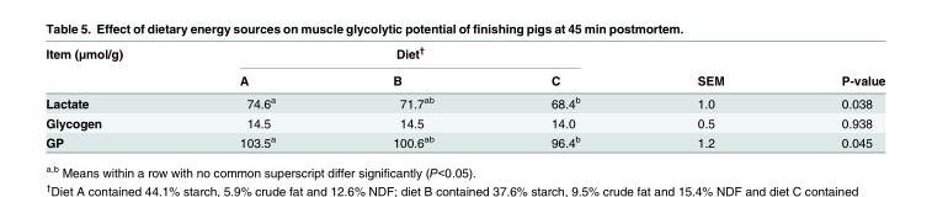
<table><thead><tr><td rowspan="2">Item (μmol/g)</td><td colspan="3">Diet<sup>†</sup></td><td rowspan="2">SEM</td><td rowspan="2">P-value</td></tr><tr><td>A</td><td>B</td><td>C</td></tr></thead><tbody><tr><td>Lactate</td><td>74.6<sup>a</sup></td><td>71.7<sup>ab</sup></td><td>68.4<sup>b</sup></td><td>1.0</td><td>0.038</td></tr><tr><td>Glycogen</td><td>14.5</td><td>14.5</td><td>14.0</td><td>0.5</td><td>0.938</td></tr><tr><td>GP</td><td>103.5<sup>a</sup></td><td>100.6<sup>ab</sup></td><td>96.4<sup>b</sup></td><td>1.2</td><td>0.045</td></tr></tbody></table>